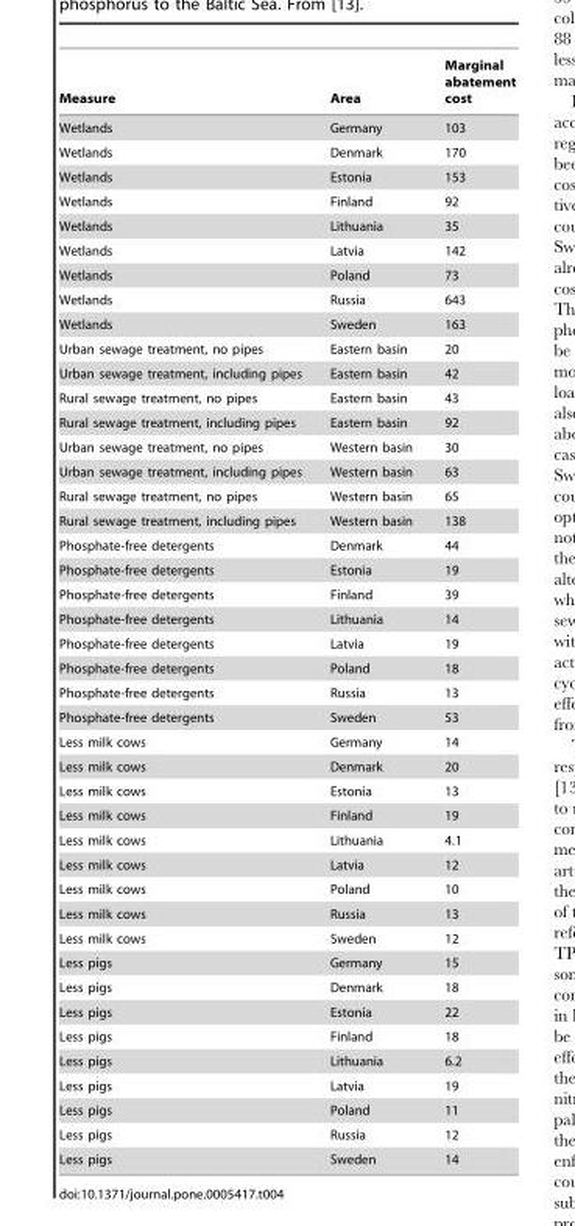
<table><thead><tr><td>Measure</td><td>Area</td><td>Marginal abatement cost</td></tr></thead><tbody><tr><td>Wetlands</td><td>Germany</td><td>103</td></tr><tr><td>Wetlands</td><td>Denmark</td><td>170</td></tr><tr><td>Wetlands</td><td>Estonia</td><td>153</td></tr><tr><td>Wetlands</td><td>Finland</td><td>92</td></tr><tr><td>Wetlands</td><td>Lithuania</td><td>35</td></tr><tr><td>Wetlands</td><td>Latvia</td><td>142</td></tr><tr><td>Wetlands</td><td>Poland</td><td>73</td></tr><tr><td>Wetlands</td><td>Russia</td><td>643</td></tr><tr><td>Wetlands</td><td>Sweden</td><td>163</td></tr><tr><td>Urban sewage treatment, no pipes</td><td>Eastern basin</td><td>20</td></tr><tr><td>Urban sewage treatment, including pipes</td><td>Eastern basin</td><td>42</td></tr><tr><td>Rural sewage treatment, no pipes</td><td>Eastern basin</td><td>43</td></tr><tr><td>Rural sewage treatment, including pipes</td><td>Eastern basin</td><td>92</td></tr><tr><td>Urban sewage treatment, no pipes</td><td>Western basin</td><td>30</td></tr><tr><td>Urban sewage treatment, including pipes</td><td>Western basin</td><td>63</td></tr><tr><td>Rural sewage treatment, no pipes</td><td>Western basin</td><td>65</td></tr><tr><td>Rural sewage treatment, including pipes</td><td>Western basin</td><td>138</td></tr><tr><td>Phosphate-free detergents</td><td>Denmark</td><td>44</td></tr><tr><td>Phosphate-free detergents</td><td>Estonia</td><td>19</td></tr><tr><td>Phosphate-free detergents</td><td>Finland</td><td>39</td></tr><tr><td>Phosphate-free detergents</td><td>Lithuania</td><td>14</td></tr><tr><td>Phosphate-free detergents</td><td>Latvia</td><td>19</td></tr><tr><td>Phosphate-free detergents</td><td>Poland</td><td>18</td></tr><tr><td>Phosphate-free detergents</td><td>Russia</td><td>13</td></tr><tr><td>Phosphate-free detergents</td><td>Sweden</td><td>53</td></tr><tr><td>Less milk cows</td><td>Germany</td><td>14</td></tr><tr><td>Less milk cows</td><td>Denmark</td><td>20</td></tr><tr><td>Less milk cows</td><td>Estonia</td><td>13</td></tr><tr><td>Less milk cows</td><td>Finland</td><td>19</td></tr><tr><td>Less milk cows</td><td>Lithuania</td><td>4.1</td></tr><tr><td>Less milk cows</td><td>Latvia</td><td>12</td></tr><tr><td>Less milk cows</td><td>Poland</td><td>10</td></tr><tr><td>Less milk cows</td><td>Russia</td><td>13</td></tr><tr><td>Less milk cows</td><td>Sweden</td><td>12</td></tr><tr><td>Less pigs</td><td>Germany</td><td>15</td></tr><tr><td>Less pigs</td><td>Denmark</td><td>18</td></tr><tr><td>Less pigs</td><td>Estonia</td><td>22</td></tr><tr><td>Less pigs</td><td>Finland</td><td>18</td></tr><tr><td>Less pigs</td><td>Lithuania</td><td>6.2</td></tr><tr><td>Less pigs</td><td>Latvia</td><td>19</td></tr><tr><td>Less pigs</td><td>Poland</td><td>11</td></tr><tr><td>Less pigs</td><td>Russia</td><td>12</td></tr><tr><td>Less pigs</td><td>Sweden</td><td>14</td></tr></tbody></table>